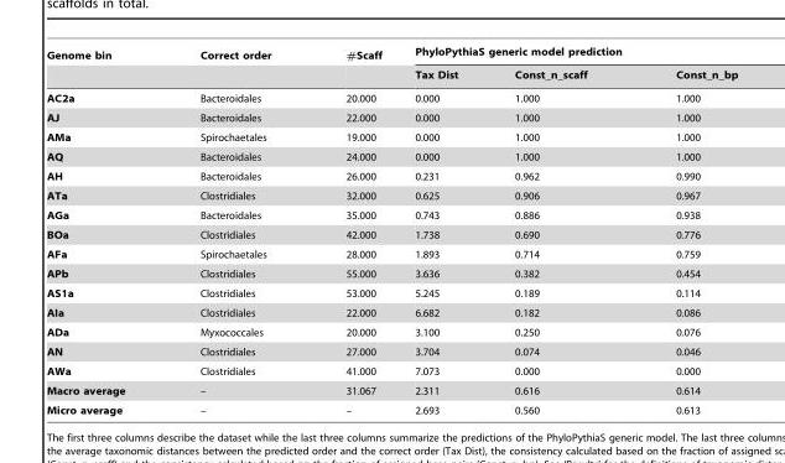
<table><thead><tr><td rowspan="2">Genome bin</td><td rowspan="2">Correct order</td><td rowspan="2">#Scaff</td><td colspan="3">PhyloPythiaS generic model prediction</td></tr><tr><td>Tax Dist</td><td>Const_n_scaff</td><td>Const_n_bp</td></tr></thead><tbody><tr><td>AC2a</td><td>Bacteroidales</td><td>20.000</td><td>0.000</td><td>1.000</td><td>1.000</td></tr><tr><td>AJ</td><td>Bacteroidales</td><td>22.000</td><td>0.000</td><td>1.000</td><td>1.000</td></tr><tr><td>AMa</td><td>Spirochaetales</td><td>19.000</td><td>0.000</td><td>1.000</td><td>1.000</td></tr><tr><td>AQ</td><td>Bacteroidales</td><td>24.000</td><td>0.000</td><td>1.000</td><td>1.000</td></tr><tr><td>AH</td><td>Bacteroidales</td><td>26.000</td><td>0.231</td><td>0.962</td><td>0.990</td></tr><tr><td>ATa</td><td>Clostridiales</td><td>32.000</td><td>0.625</td><td>0.906</td><td>0.967</td></tr><tr><td>AGa</td><td>Bacteroidales</td><td>35.000</td><td>0.743</td><td>0.886</td><td>0.938</td></tr><tr><td>BOa</td><td>Clostridiales</td><td>42.000</td><td>1.738</td><td>0.690</td><td>0.776</td></tr><tr><td>AFa</td><td>Spirochaetales</td><td>28.000</td><td>1.893</td><td>0.714</td><td>0.759</td></tr><tr><td>APb</td><td>Clostridiales</td><td>55.000</td><td>3.636</td><td>0.382</td><td>0.454</td></tr><tr><td>AS1a</td><td>Clostridiales</td><td>53.000</td><td>5.245</td><td>0.189</td><td>0.114</td></tr><tr><td>AIa</td><td>Clostridiales</td><td>22.000</td><td>6.682</td><td>0.182</td><td>0.086</td></tr><tr><td>ADa</td><td>Myxococcales</td><td>20.000</td><td>3.100</td><td>0.250</td><td>0.076</td></tr><tr><td>AN</td><td>Clostridiales</td><td>27.000</td><td>3.704</td><td>0.074</td><td>0.046</td></tr><tr><td>AWa</td><td>Clostridiales</td><td>41.000</td><td>7.073</td><td>0.000</td><td>0.000</td></tr><tr><td>Macro average</td><td>–</td><td>31.067</td><td>2.311</td><td>0.616</td><td>0.614</td></tr><tr><td>Micro average</td><td>–</td><td>–</td><td>2.693</td><td>0.560</td><td>0.613</td></tr></tbody></table>